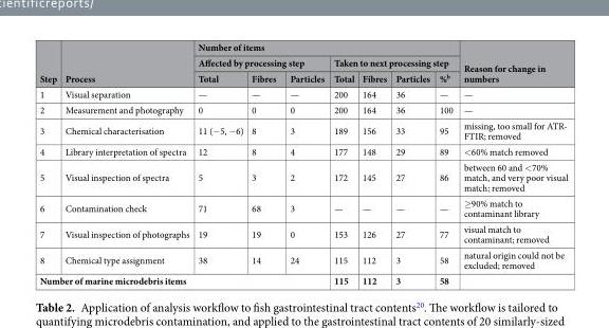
<table><thead><tr><td rowspan="3">Step</td><td rowspan="3">Process</td><td colspan="7">Number of items</td><td rowspan="3">Reason for change in numbers</td></tr><tr><td colspan="3">Affected by processing step</td><td colspan="4">Taken to next processing step</td></tr><tr><td>Total</td><td>Fibres</td><td>Particles</td><td>Total</td><td>Fibres</td><td>Particles</td><td>%<sup>b</sup></td></tr></thead><tbody><tr><td>1</td><td>Visual separation</td><td>—</td><td>—</td><td>—</td><td>200</td><td>164</td><td>36</td><td>—</td><td>—</td></tr><tr><td>2</td><td>Measurement and photography</td><td>0</td><td>0</td><td>0</td><td>200</td><td>164</td><td>36</td><td>100</td><td>—</td></tr><tr><td>3</td><td>Chemical characterisation</td><td>11 (−5, −6)</td><td>8</td><td>3</td><td>189</td><td>156</td><td>33</td><td>95</td><td>missing, too small for ATR- FTIR; removed</td></tr><tr><td>4</td><td>Library interpretation of spectra</td><td>12</td><td>8</td><td>4</td><td>177</td><td>148</td><td>29</td><td>89</td><td>&lt;60% match removed</td></tr><tr><td>5</td><td>Visual inspection of spectra</td><td>5</td><td>3</td><td>2</td><td>172</td><td>145</td><td>27</td><td>86</td><td>between 60 and &lt;70% match, and very poor visual match; removed</td></tr><tr><td>6</td><td>Contamination check</td><td>71</td><td>68</td><td>3</td><td>—</td><td>—</td><td>—</td><td>—</td><td>≥90% match to contaminant library</td></tr><tr><td>7</td><td>Visual inspection of photographs</td><td>19</td><td>19</td><td>0</td><td>153</td><td>126</td><td>27</td><td>77</td><td>visual match to contaminant; removed</td></tr><tr><td>8</td><td>Chemical type assignment</td><td>38</td><td>14</td><td>24</td><td>115</td><td>112</td><td>3</td><td>58</td><td>natural origin could not be excluded; removed</td></tr><tr><td colspan="5">Number of marine microdebris items</td><td>115</td><td>112</td><td>3</td><td>58</td><td></td></tr></tbody></table>